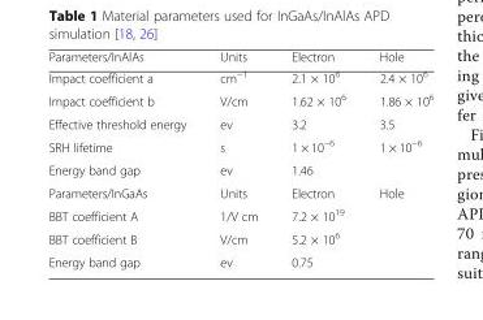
<table><thead><tr><td>Parameters/InAlAs</td><td>Units</td><td>Electron</td><td>Hole</td></tr></thead><tbody><tr><td>Impact coefficient a</td><td>cm<sup>−1</sup></td><td>2.1 × 10<sup>6</sup></td><td>2.4 × 10<sup>6</sup></td></tr><tr><td>Impact coefficient b</td><td>V/cm</td><td>1.62 × 10<sup>6</sup></td><td>1.86 × 10<sup>6</sup></td></tr><tr><td>Effective threshold energy</td><td>ev</td><td>3.2</td><td>3.5</td></tr><tr><td>SRH lifetime</td><td>s</td><td>1 × 10<sup>−6</sup></td><td>1 × 10<sup>−6</sup></td></tr><tr><td>Energy band gap</td><td>ev</td><td>1.46</td><td></td></tr><tr><td>Parameters/InGaAs</td><td>Units</td><td>Electron</td><td>Hole</td></tr><tr><td>BBT coefficient A</td><td>1/V cm</td><td>7.2 × 10<sup>19</sup></td><td></td></tr><tr><td>BBT coefficient B</td><td>V/cm</td><td>5.2 × 10<sup>6</sup></td><td></td></tr><tr><td>Energy band gap</td><td>ev</td><td>0.75</td><td></td></tr></tbody></table>